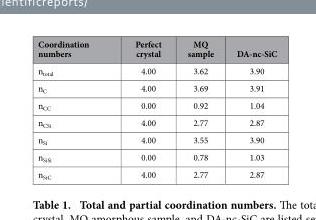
<table><thead><tr><td>Coordination numbers</td><td>Perfect crystal</td><td>MQ sample</td><td>DA-nc-SiC</td></tr></thead><tbody><tr><td>n<sub>total</sub></td><td>4.00</td><td>3.62</td><td>3.90</td></tr><tr><td>n<sub>C</sub></td><td>4.00</td><td>3.69</td><td>3.91</td></tr><tr><td>n<sub>CC</sub></td><td>0.00</td><td>0.92</td><td>1.04</td></tr><tr><td>n<sub>CSi</sub></td><td>4.00</td><td>2.77</td><td>2.87</td></tr><tr><td>n<sub>Si</sub></td><td>4.00</td><td>3.55</td><td>3.90</td></tr><tr><td>n<sub>SiSi</sub></td><td>0.00</td><td>0.78</td><td>1.03</td></tr><tr><td>n<sub>SiC</sub></td><td>4.00</td><td>2.77</td><td>2.87</td></tr></tbody></table>